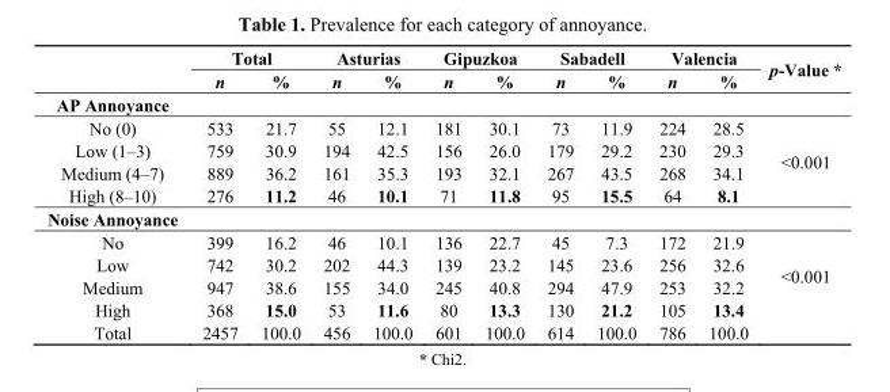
<table><thead><tr><td rowspan="2"></td><td colspan="2">Total</td><td colspan="2">Asturias</td><td colspan="2">Gipuzkoa</td><td colspan="2">Sabadell</td><td colspan="2">Valencia</td><td rowspan="2">p-Value *</td></tr><tr><td>n</td><td>%</td><td>n</td><td>%</td><td>n</td><td>%</td><td>n</td><td>%</td><td>n</td><td>%</td></tr></thead><tbody><tr><td colspan="12">AP Annoyance</td></tr><tr><td>No (0)</td><td>533</td><td>21.7</td><td>55</td><td>12.1</td><td>181</td><td>30.1</td><td>73</td><td>11.9</td><td>224</td><td>28.5</td><td rowspan="4">&lt;0.001</td></tr><tr><td>Low (1–3)</td><td>759</td><td>30.9</td><td>194</td><td>42.5</td><td>156</td><td>26.0</td><td>179</td><td>29.2</td><td>230</td><td>29.3</td></tr><tr><td>Medium (4–7)</td><td>889</td><td>36.2</td><td>161</td><td>35.3</td><td>193</td><td>32.1</td><td>267</td><td>43.5</td><td>268</td><td>34.1</td></tr><tr><td>High (8–10)</td><td>276</td><td>11.2</td><td>46</td><td>10.1</td><td>71</td><td>11.8</td><td>95</td><td>15.5</td><td>64</td><td>8.1</td></tr><tr><td colspan="12">Noise Annoyance</td></tr><tr><td>No</td><td>399</td><td>16.2</td><td>46</td><td>10.1</td><td>136</td><td>22.7</td><td>45</td><td>7.3</td><td>172</td><td>21.9</td><td rowspan="4">&lt;0.001</td></tr><tr><td>Low</td><td>742</td><td>30.2</td><td>202</td><td>44.3</td><td>139</td><td>23.2</td><td>145</td><td>23.6</td><td>256</td><td>32.6</td></tr><tr><td>Medium</td><td>947</td><td>38.6</td><td>155</td><td>34.0</td><td>245</td><td>40.8</td><td>294</td><td>47.9</td><td>253</td><td>32.2</td></tr><tr><td>High</td><td>368</td><td>15.0</td><td>53</td><td>11.6</td><td>80</td><td>13.3</td><td>130</td><td>21.2</td><td>105</td><td>13.4</td></tr><tr><td>Total</td><td>2457</td><td>100.0</td><td>456</td><td>100.0</td><td>601</td><td>100.0</td><td>614</td><td>100.0</td><td>786</td><td>100.0</td><td></td></tr></tbody></table>